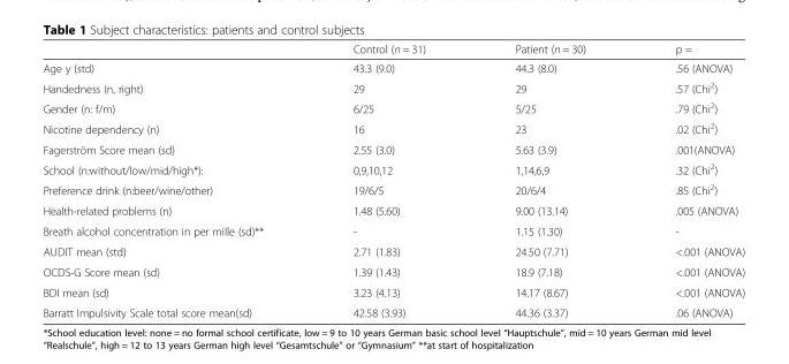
<table><thead><tr><td></td><td>Control (n = 31)</td><td>Patient (n = 30)</td><td>p =</td></tr></thead><tbody><tr><td>Age y (std)</td><td>43.3 (9.0)</td><td>44.3 (8.0)</td><td>.56 (ANOVA)</td></tr><tr><td>Handedness (n, right)</td><td>29</td><td>29</td><td>.57 (Chi<sup>2</sup>)</td></tr><tr><td>Gender (n: f/m)</td><td>6/25</td><td>5/25</td><td>.79 (Chi<sup>2</sup>)</td></tr><tr><td>Nicotine dependency (n)</td><td>16</td><td>23</td><td>.02 (Chi<sup>2</sup>)</td></tr><tr><td>Fagerström Score mean (sd)</td><td>2.55 (3.0)</td><td>5.63 (3.9)</td><td>.001(ANOVA)</td></tr><tr><td>School (n:without/low/mid/high*):</td><td>0,9,10,12</td><td>1,14,6,9</td><td>.32 (Chi<sup>2</sup>)</td></tr><tr><td>Preference drink (n:beer/wine/other)</td><td>19/6/5</td><td>20/6/4</td><td>.85 (Chi<sup>2</sup>)</td></tr><tr><td>Health-related problems (n)</td><td>1.48 (5.60)</td><td>9.00 (13.14)</td><td>.005 (ANOVA)</td></tr><tr><td>Breath alcohol concentration in per mille (sd)**</td><td>-</td><td>1.15 (1.30)</td><td>-</td></tr><tr><td>AUDIT mean (std)</td><td>2.71 (1.83)</td><td>24.50 (7.71)</td><td>&lt;.001 (ANOVA)</td></tr><tr><td>OCDS-G Score mean (sd)</td><td>1.39 (1.43)</td><td>18.9 (7.18)</td><td>&lt;.001 (ANOVA)</td></tr><tr><td>BDI mean (sd)</td><td>3.23 (4.13)</td><td>14.17 (8.67)</td><td>&lt;.001 (ANOVA)</td></tr><tr><td>Barratt Impulsivity Scale total score mean(sd)</td><td>42.58 (3.93)</td><td>44.36 (3.37)</td><td>.06 (ANOVA)</td></tr></tbody></table>